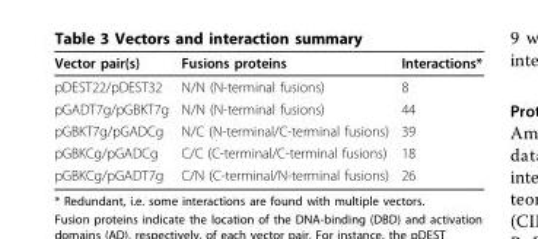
<table><thead><tr><td>Vector pair(s)</td><td>Fusions proteins</td><td>Interactions*</td></tr></thead><tbody><tr><td>pDEST22/pDEST32</td><td>N/N (N-terminal fusions)</td><td>8</td></tr><tr><td>pGADT7g/pGBKT7g</td><td>N/N (N-terminal fusions)</td><td>44</td></tr><tr><td>pGBKT7g/pGADCg</td><td>N/C (N-terminal/C-terminal fusions)</td><td>39</td></tr><tr><td>pGBKCg/pGADCg</td><td>C/C (C-terminal/C-terminal fusions)</td><td>18</td></tr><tr><td>pGBKCg/pGADT7g</td><td>C/N (C-terminal/N-terminal fusions)</td><td>26</td></tr></tbody></table>